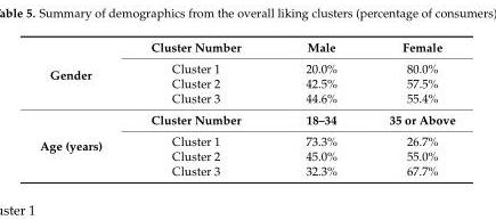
<table><tbody><tr><td rowspan="4">Gender</td><td>Cluster Number</td><td>Male</td><td>Female</td></tr><tr><td>Cluster 1</td><td>20.0%</td><td>80.0%</td></tr><tr><td>Cluster 2</td><td>42.5%</td><td>57.5%</td></tr><tr><td>Cluster 3</td><td>44.6%</td><td>55.4%</td></tr><tr><td rowspan="4">Age (years)</td><td>Cluster Number</td><td>18–34</td><td>35 or Above</td></tr><tr><td>Cluster 1</td><td>73.3%</td><td>26.7%</td></tr><tr><td>Cluster 2</td><td>45.0%</td><td>55.0%</td></tr><tr><td>Cluster 3</td><td>32.3%</td><td>67.7%</td></tr></tbody></table>